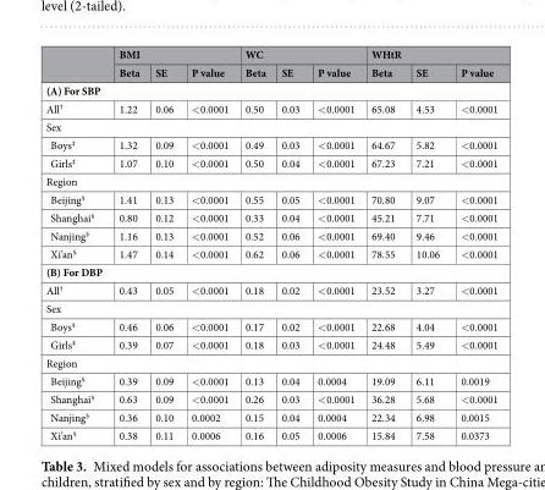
<table><thead><tr><td rowspan="2"></td><td colspan="3">BMI</td><td colspan="3">WC</td><td colspan="3">WHtR</td></tr><tr><td>Beta</td><td>SE</td><td>P value</td><td>Beta</td><td>SE</td><td>P value</td><td>Beta</td><td>SE</td><td>P value</td></tr></thead><tbody><tr><td colspan="10">(A) For SBP</td></tr><tr><td>All<sup>†</sup></td><td>1.22</td><td>0.06</td><td>&lt;0.0001</td><td>0.50</td><td>0.03</td><td>&lt;0.0001</td><td>65.08</td><td>4.53</td><td>&lt;0.0001</td></tr><tr><td colspan="10">Sex</td></tr><tr><td>Boys<sup>‡</sup></td><td>1.32</td><td>0.09</td><td>&lt;0.0001</td><td>0.49</td><td>0.03</td><td>&lt;0.0001</td><td>64.67</td><td>5.82</td><td>&lt;0.0001</td></tr><tr><td>Girls<sup>‡</sup></td><td>1.07</td><td>0.10</td><td>&lt;0.0001</td><td>0.50</td><td>0.04</td><td>&lt;0.0001</td><td>67.23</td><td>7.21</td><td>&lt;0.0001</td></tr><tr><td colspan="10">Region</td></tr><tr><td>Beijing<sup>§</sup></td><td>1.41</td><td>0.13</td><td>&lt;0.0001</td><td>0.55</td><td>0.05</td><td>&lt;0.0001</td><td>70.80</td><td>9.07</td><td>&lt;0.0001</td></tr><tr><td>Shanghai<sup>§</sup></td><td>0.80</td><td>0.12</td><td>&lt;0.0001</td><td>0.33</td><td>0.04</td><td>&lt;0.0001</td><td>45.21</td><td>7.71</td><td>&lt;0.0001</td></tr><tr><td>Nanjing<sup>§</sup></td><td>1.16</td><td>0.13</td><td>&lt;0.0001</td><td>0.52</td><td>0.06</td><td>&lt;0.0001</td><td>69.40</td><td>9.46</td><td>&lt;0.0001</td></tr><tr><td>Xi’an<sup>§</sup></td><td>1.47</td><td>0.14</td><td>&lt;0.0001</td><td>0.62</td><td>0.06</td><td>&lt;0.0001</td><td>78.55</td><td>10.06</td><td>&lt;0.0001</td></tr><tr><td colspan="10">(B) For DBP</td></tr><tr><td>All<sup>†</sup></td><td>0.43</td><td>0.05</td><td>&lt;0.0001</td><td>0.18</td><td>0.02</td><td>&lt;0.0001</td><td>23.52</td><td>3.27</td><td>&lt;0.0001</td></tr><tr><td colspan="10">Sex</td></tr><tr><td>Boys<sup>‡</sup></td><td>0.46</td><td>0.06</td><td>&lt;0.0001</td><td>0.17</td><td>0.02</td><td>&lt;0.0001</td><td>22.68</td><td>4.04</td><td>&lt;0.0001</td></tr><tr><td>Girls<sup>‡</sup></td><td>0.39</td><td>0.07</td><td>&lt;0.0001</td><td>0.18</td><td>0.03</td><td>&lt;0.0001</td><td>24.48</td><td>5.49</td><td>&lt;0.0001</td></tr><tr><td colspan="10">Region</td></tr><tr><td>Beijing<sup>§</sup></td><td>0.39</td><td>0.09</td><td>&lt;0.0001</td><td>0.13</td><td>0.04</td><td>0.0004</td><td>19.09</td><td>6.11</td><td>0.0019</td></tr><tr><td>Shanghai<sup>§</sup></td><td>0.63</td><td>0.09</td><td>&lt;0.0001</td><td>0.26</td><td>0.03</td><td>&lt;0.0001</td><td>36.28</td><td>5.68</td><td>&lt;0.0001</td></tr><tr><td>Nanjing<sup>§</sup></td><td>0.36</td><td>0.10</td><td>0.0002</td><td>0.15</td><td>0.04</td><td>0.0004</td><td>22.34</td><td>6.98</td><td>0.0015</td></tr><tr><td>Xi’an<sup>§</sup></td><td>0.38</td><td>0.11</td><td>0.0006</td><td>0.16</td><td>0.05</td><td>0.0006</td><td>15.84</td><td>7.58</td><td>0.0373</td></tr></tbody></table>